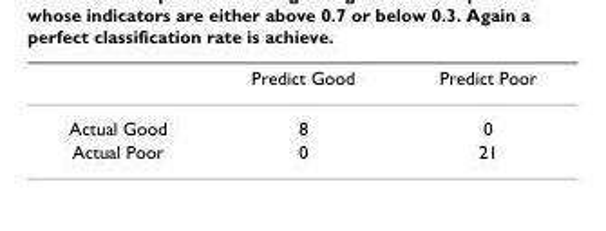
<table><thead><tr><td></td><td>Predict Good</td><td>Predict Poor</td></tr></thead><tbody><tr><td>Actual Good</td><td>8</td><td>0</td></tr><tr><td>Actual Poor</td><td>0</td><td>21</td></tr></tbody></table>